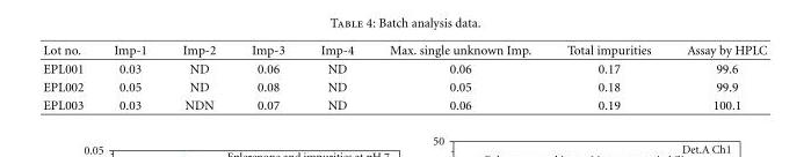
<table><thead><tr><td>Lot no.</td><td>Imp-1</td><td>Imp-2</td><td>Imp-3</td><td>Imp-4</td><td>Max. single unknown Imp.</td><td>Total impurities</td><td>Assay by HPLC</td></tr></thead><tbody><tr><td>EPL001</td><td>0.03</td><td>ND</td><td>0.06</td><td>ND</td><td>0.06</td><td>0.17</td><td>99.6</td></tr><tr><td>EPL002</td><td>0.05</td><td>ND</td><td>0.08</td><td>ND</td><td>0.05</td><td>0.18</td><td>99.9</td></tr><tr><td>EPL003</td><td>0.03</td><td>NDN</td><td>0.07</td><td>ND</td><td>0.06</td><td>0.19</td><td>100.1</td></tr></tbody></table>